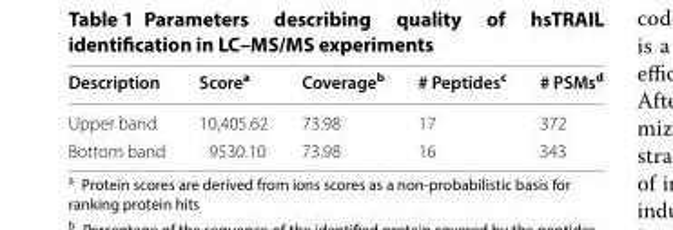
<table><thead><tr><td>Description</td><td>Score<sup>a</sup></td><td>Coverage<sup>b</sup></td><td># Peptides<sup>c</sup></td><td># PSMs<sup>d</sup></td></tr></thead><tbody><tr><td>Upper band</td><td>10,405.62</td><td>73.98</td><td>17</td><td>372</td></tr><tr><td>Bottom band</td><td>9530.10</td><td>73.98</td><td>16</td><td>343</td></tr></tbody></table>